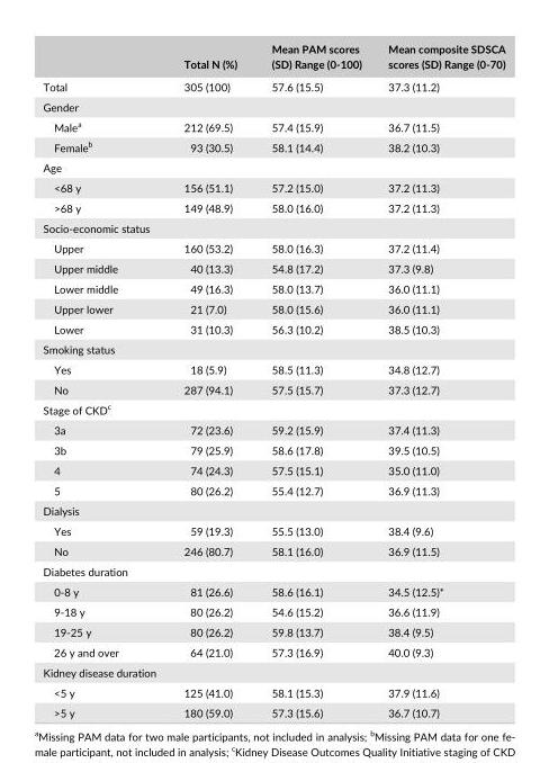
<table><thead><tr><td></td><td>Total N (%)</td><td>Mean PAM scores (SD) Range (0- 100)</td><td>Mean composite SDSCA scores (SD) Range (0- 70)</td></tr></thead><tbody><tr><td>Total</td><td>305 (100)</td><td>57.6 (15.5)</td><td>37.3 (11.2)</td></tr><tr><td colspan="4">Gender</td></tr><tr><td>Male<sup>a</sup></td><td>212 (69.5)</td><td>57.4 (15.9)</td><td>36.7 (11.5)</td></tr><tr><td>Female<sup>b</sup></td><td>93 (30.5)</td><td>58.1 (14.4)</td><td>38.2 (10.3)</td></tr><tr><td colspan="4">Age</td></tr><tr><td>&lt;68 y</td><td>156 (51.1)</td><td>57.2 (15.0)</td><td>37.2 (11.3)</td></tr><tr><td>&gt;68 y</td><td>149 (48.9)</td><td>58.0 (16.0)</td><td>37.2 (11.3)</td></tr><tr><td colspan="4">Socio- economic status</td></tr><tr><td>Upper</td><td>160 (53.2)</td><td>58.0 (16.3)</td><td>37.2 (11.4)</td></tr><tr><td>Upper middle</td><td>40 (13.3)</td><td>54.8 (17.2)</td><td>37.3 (9.8)</td></tr><tr><td>Lower middle</td><td>49 (16.3)</td><td>58.0 (13.7)</td><td>36.0 (11.1)</td></tr><tr><td>Upper lower</td><td>21 (7.0)</td><td>58.0 (15.6)</td><td>36.0 (11.1)</td></tr><tr><td>Lower</td><td>31 (10.3)</td><td>56.3 (10.2)</td><td>38.5 (10.3)</td></tr><tr><td colspan="4">Smoking status</td></tr><tr><td>Yes</td><td>18 (5.9)</td><td>58.5 (11.3)</td><td>34.8 (12.7)</td></tr><tr><td>No</td><td>287 (94.1)</td><td>57.5 (15.7)</td><td>37.3 (12.7)</td></tr><tr><td colspan="4">Stage of CKD<sup>c</sup></td></tr><tr><td>3a</td><td>72 (23.6)</td><td>59.2 (15.9)</td><td>37.4 (11.3)</td></tr><tr><td>3b</td><td>79 (25.9)</td><td>58.6 (17.8)</td><td>39.5 (10.5)</td></tr><tr><td>4</td><td>74 (24.3)</td><td>57.5 (15.1)</td><td>35.0 (11.0)</td></tr><tr><td>5</td><td>80 (26.2)</td><td>55.4 (12.7)</td><td>36.9 (11.3)</td></tr><tr><td colspan="4">Dialysis</td></tr><tr><td>Yes</td><td>59 (19.3)</td><td>55.5 (13.0)</td><td>38.4 (9.6)</td></tr><tr><td>No</td><td>246 (80.7)</td><td>58.1 (16.0)</td><td>36.9 (11.5)</td></tr><tr><td colspan="4">Diabetes duration</td></tr><tr><td>0- 8 y</td><td>81 (26.6)</td><td>58.6 (16.1)</td><td>34.5 (12.5)*</td></tr><tr><td>9- 18 y</td><td>80 (26.2)</td><td>54.6 (15.2)</td><td>36.6 (11.9)</td></tr><tr><td>19- 25 y</td><td>80 (26.2)</td><td>59.8 (13.7)</td><td>38.4 (9.5)</td></tr><tr><td>26 y and over</td><td>64 (21.0)</td><td>57.3 (16.9)</td><td>40.0 (9.3)</td></tr><tr><td colspan="4">Kidney disease duration</td></tr><tr><td>&lt;5 y</td><td>125 (41.0)</td><td>58.1 (15.3)</td><td>37.9 (11.6)</td></tr><tr><td>&gt;5 y</td><td>180 (59.0)</td><td>57.3 (15.6)</td><td>36.7 (10.7)</td></tr></tbody></table>